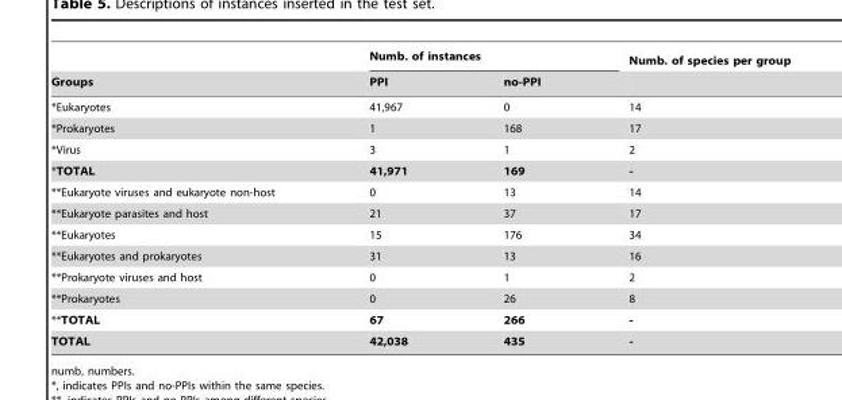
<table><thead><tr><td rowspan="2">Groups</td><td colspan="2">Numb. of instances</td><td rowspan="2">Numb. of species per group</td></tr><tr><td>PPI</td><td>no-PPI</td></tr></thead><tbody><tr><td>*Eukaryotes</td><td>41,967</td><td>0</td><td>14</td></tr><tr><td>*Prokaryotes</td><td>1</td><td>168</td><td>17</td></tr><tr><td>*Virus</td><td>3</td><td>1</td><td>2</td></tr><tr><td>*TOTAL</td><td>41,971</td><td>169</td><td>-</td></tr><tr><td>**Eukaryote viruses and eukaryote non-host</td><td>0</td><td>13</td><td>14</td></tr><tr><td>**Eukaryote parasites and host</td><td>21</td><td>37</td><td>17</td></tr><tr><td>**Eukaryotes</td><td>15</td><td>176</td><td>34</td></tr><tr><td>**Eukaryotes and prokaryotes</td><td>31</td><td>13</td><td>16</td></tr><tr><td>**Prokaryote viruses and host</td><td>0</td><td>1</td><td>2</td></tr><tr><td>**Prokaryotes</td><td>0</td><td>26</td><td>8</td></tr><tr><td>**TOTAL</td><td>67</td><td>266</td><td>-</td></tr><tr><td>TOTAL</td><td>42,038</td><td>435</td><td>-</td></tr></tbody></table>